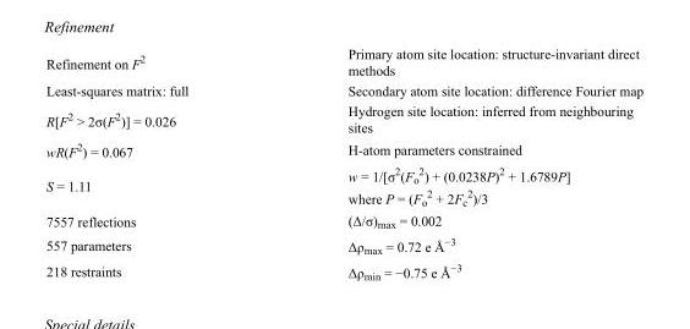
<table><tbody><tr><td>Refinement on F<sup>2</sup></td><td>Primary atom site location: structure-invariant direct methods</td></tr><tr><td>Least-squares matrix: full</td><td>Secondary atom site location: difference Fourier map</td></tr><tr><td>R[F<sup>2</sup> &gt; 2σ(F<sup>2</sup>)] = 0.026</td><td>Hydrogen site location: inferred from neighbouring sites</td></tr><tr><td>wR(F<sup>2</sup>) = 0.067</td><td>H-atom parameters constrained</td></tr><tr><td>S = 1.11</td><td>w = 1/[σ<sup>2</sup>(F<sub>o</sub> <sup>2</sup>) + (0.0238P)<sup>2</sup> + 1.6789P] where P = (F<sub>o</sub> <sup>2</sup> + 2F<sub>c</sub> <sup>2</sup>)/3</td></tr><tr><td>7557 reflections</td><td>(Δ/σ)<sub>max</sub> = 0.002</td></tr><tr><td>557 parameters</td><td>Δρ<sub>max</sub> = 0.72 e Å<sup>−3</sup></td></tr><tr><td>218 restraints</td><td>Δρ<sub>min</sub> = −0.75 e Å<sup>−3</sup></td></tr></tbody></table>